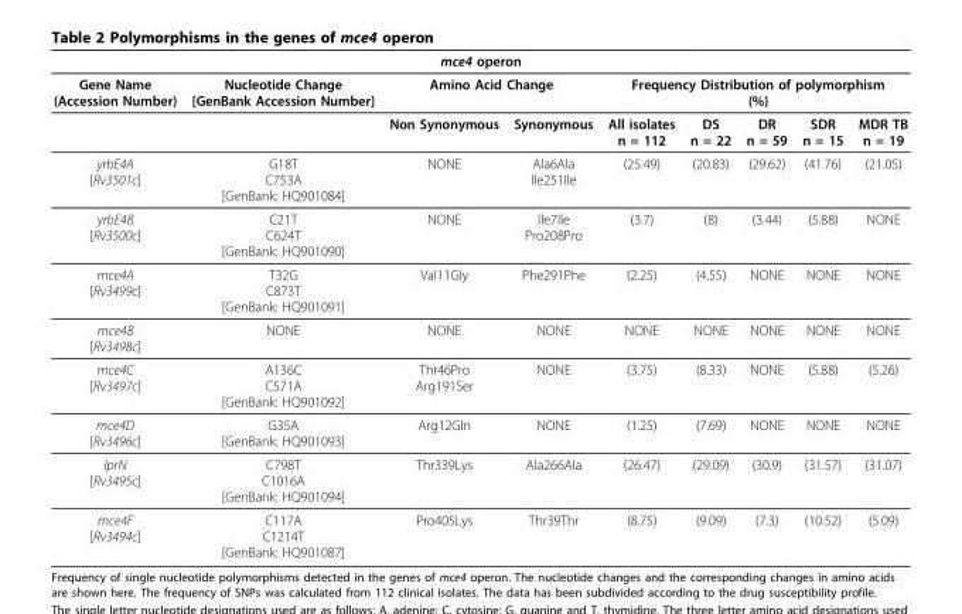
<table><thead><tr><td colspan="9">mce4 operon</td></tr><tr><td rowspan="2">Gene Name (Accession Number)</td><td rowspan="2">Nucleotide Change [GenBank Accession Number]</td><td colspan="2">Amino Acid Change</td><td colspan="5">Frequency Distribution of polymorphism (%)</td></tr><tr><td>Non Synonymous</td><td>Synonymous</td><td>All isolates n = 112</td><td>DS n = 22</td><td>DR n = 59</td><td>SDR n = 15</td><td>MDR TB n = 19</td></tr></thead><tbody><tr><td>yrbE4A [Rv3501c]</td><td>G18T C753A [GenBank: HQ901084]</td><td>NONE</td><td>Ala6Ala Ile251Ile</td><td>(25.49)</td><td>(20.83)</td><td>(29.62)</td><td>(41.76)</td><td>(21.05)</td></tr><tr><td>yrbE4B [Rv3500c]</td><td>C21T C624T [GenBank: HQ901090]</td><td>NONE</td><td>Ile7Ile Pro208Pro</td><td>(3.7)</td><td>(8)</td><td>(3.44)</td><td>(5.88)</td><td>NONE</td></tr><tr><td>mce4A [Rv3499c]</td><td>T32G C873T [GenBank: HQ901091]</td><td>Val11Gly</td><td>Phe291Phe</td><td>(2.25)</td><td>(4.55)</td><td>NONE</td><td>NONE</td><td>NONE</td></tr><tr><td>mce4B [Rv3498c]</td><td>NONE</td><td>NONE</td><td>NONE</td><td>NONE</td><td>NONE</td><td>NONE</td><td>NONE</td><td>NONE</td></tr><tr><td>mce4C [Rv3497c]</td><td>A136C C571A [GenBank: HQ901092]</td><td>Thr46Pro Arg191Ser</td><td>NONE</td><td>(3.75)</td><td>(8.33)</td><td>NONE</td><td>(5.88)</td><td>(5.26)</td></tr><tr><td>mce4D [Rv3496c]</td><td>G35A [GenBank: HQ901093]</td><td>Arg12Gln</td><td>NONE</td><td>(1.25)</td><td>(7.69)</td><td>NONE</td><td>NONE</td><td>NONE</td></tr><tr><td>lprN [Rv3495c]</td><td>C798T C1016A [GenBank: HQ901094]</td><td>Thr339Lys</td><td>Ala266Ala</td><td>(26.47)</td><td>(29.09)</td><td>(30.9)</td><td>(31.57)</td><td>(31.07)</td></tr><tr><td>mce4F [Rv3494c]</td><td>C117A C1214T [GenBank: HQ901087]</td><td>Pro405Lys</td><td>Thr39Thr</td><td>(8.75)</td><td>(9.09)</td><td>(7.3)</td><td>(10.52)</td><td>(5.09)</td></tr></tbody></table>